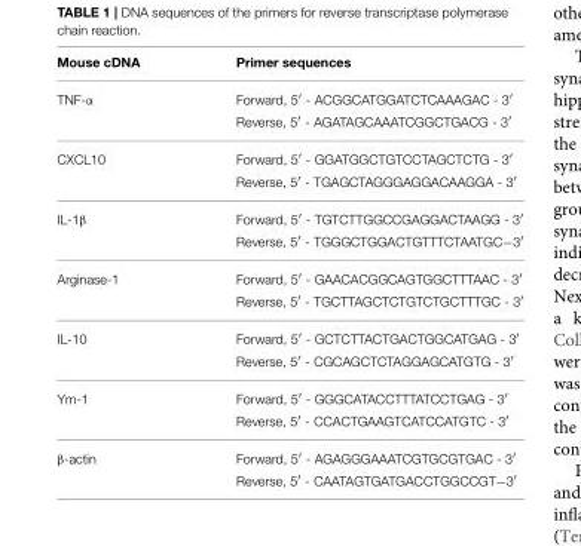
<table><thead><tr><td>Mouse cDNA</td><td>Primer sequences</td></tr></thead><tbody><tr><td rowspan="2">TNF-α</td><td>Forward, 5′ - ACGGCATGGATCTCAAAGAC - 3′</td></tr><tr><td>Reverse, 5′ - AGATAGCAAATCGGCTGACG - 3′</td></tr><tr><td rowspan="2">CXCL10</td><td>Forward, 5′ - GGATGGCTGTCCTAGCTCTG - 3′</td></tr><tr><td>Reverse, 5′ - TGAGCTAGGGAGGACAAGGA - 3′</td></tr><tr><td rowspan="2">IL-1β</td><td>Forward, 5′ - TGTCTTGGCCGAGGACTAAGG - 3′</td></tr><tr><td>Reverse, 5′ - TGGGCTGGACTGTTTCTAATGC−3′</td></tr><tr><td rowspan="2">Arginase-1</td><td>Forward, 5′ - GAACACGGCAGTGGCTTTAAC - 3′</td></tr><tr><td>Reverse, 5′ - TGCTTAGCTCTGTCTGCTTTGC - 3′</td></tr><tr><td rowspan="2">IL-10</td><td>Forward, 5′ - GCTCTTACTGACTGGCATGAG - 3′</td></tr><tr><td>Reverse, 5′ - CGCAGCTCTAGGAGCATGTG - 3′</td></tr><tr><td rowspan="2">Ym-1</td><td>Forward, 5′ - GGGCATACCTTTATCCTGAG - 3′</td></tr><tr><td>Reverse, 5′ - CCACTGAAGTCATCCATGTC - 3′</td></tr><tr><td rowspan="2">β-actin</td><td>Forward, 5′ - AGAGGGAAATCGTGCGTGAC - 3′</td></tr><tr><td>Reverse, 5′ - CAATAGTGATGACCTGGCCGT−3′</td></tr></tbody></table>